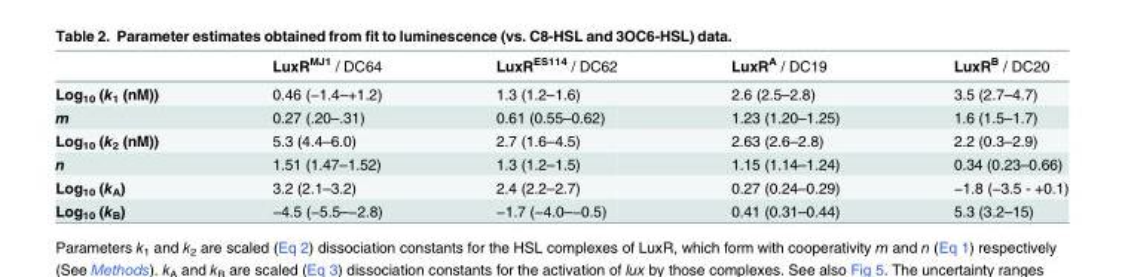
<table><thead><tr><td></td><td>LuxR<sup>MJ1</sup> / DC64</td><td>LuxR<sup>ES114</sup> / DC62</td><td>LuxR<sup>A</sup> / DC19</td><td>LuxR<sup>B</sup> / DC20</td></tr></thead><tbody><tr><td>Log<sub>10</sub> (k<sub>1</sub> (nM))</td><td>0.46 (−1.4–+1.2)</td><td>1.3 (1.2–1.6)</td><td>2.6 (2.5–2.8)</td><td>3.5 (2.7–4.7)</td></tr><tr><td>m</td><td>0.27 (.20–.31)</td><td>0.61 (0.55–0.62)</td><td>1.23 (1.20–1.25)</td><td>1.6 (1.5–1.7)</td></tr><tr><td>Log<sub>10</sub> (k<sub>2</sub> (nM))</td><td>5.3 (4.4–6.0)</td><td>2.7 (1.6–4.5)</td><td>2.63 (2.6–2.8)</td><td>2.2 (0.3–2.9)</td></tr><tr><td>n</td><td>1.51 (1.47–1.52)</td><td>1.3 (1.2–1.5)</td><td>1.15 (1.14–1.24)</td><td>0.34 (0.23–0.66)</td></tr><tr><td>Log<sub>10</sub> (k<sub>A</sub>)</td><td>3.2 (2.1–3.2)</td><td>2.4 (2.2–2.7)</td><td>0.27 (0.24–0.29)</td><td>−1.8 (−3.5 - +0.1)</td></tr><tr><td>Log<sub>10</sub> (k<sub>B</sub>)</td><td>−4.5 (−5.5–−2.8)</td><td>−1.7 (−4.0–−0.5)</td><td>0.41 (0.31–0.44)</td><td>5.3 (3.2–15)</td></tr></tbody></table>